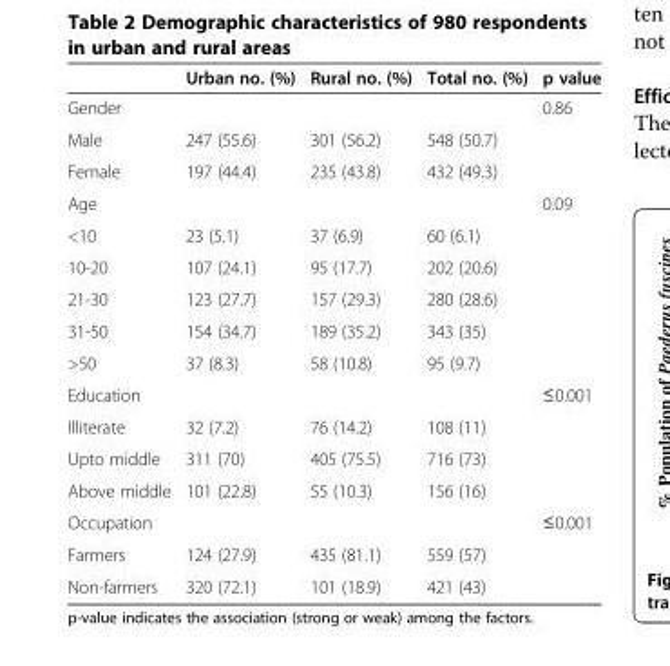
<table><thead><tr><td></td><td>Urban no. (%)</td><td>Rural no. (%)</td><td>Total no. (%)</td><td>p value</td></tr></thead><tbody><tr><td>Gender</td><td></td><td></td><td></td><td>0.86</td></tr><tr><td>Male</td><td>247 (55.6)</td><td>301 (56.2)</td><td>548 (50.7)</td><td></td></tr><tr><td>Female</td><td>197 (44.4)</td><td>235 (43.8)</td><td>432 (49.3)</td><td></td></tr><tr><td>Age</td><td></td><td></td><td></td><td>0.09</td></tr><tr><td>&lt;10</td><td>23 (5.1)</td><td>37 (6.9)</td><td>60 (6.1)</td><td></td></tr><tr><td>10-20</td><td>107 (24.1)</td><td>95 (17.7)</td><td>202 (20.6)</td><td></td></tr><tr><td>21-30</td><td>123 (27.7)</td><td>157 (29.3)</td><td>280 (28.6)</td><td></td></tr><tr><td>31-50</td><td>154 (34.7)</td><td>189 (35.2)</td><td>343 (35)</td><td></td></tr><tr><td>&gt;50</td><td>37 (8.3)</td><td>58 (10.8)</td><td>95 (9.7)</td><td></td></tr><tr><td>Education</td><td></td><td></td><td></td><td>≤0.001</td></tr><tr><td>Illiterate</td><td>32 (7.2)</td><td>76 (14.2)</td><td>108 (11)</td><td></td></tr><tr><td>Upto middle</td><td>311 (70)</td><td>405 (75.5)</td><td>716 (73)</td><td></td></tr><tr><td>Above middle</td><td>101 (22.8)</td><td>55 (10.3)</td><td>156 (16)</td><td></td></tr><tr><td>Occupation</td><td></td><td></td><td></td><td>≤0.001</td></tr><tr><td>Farmers</td><td>124 (27.9)</td><td>435 (81.1)</td><td>559 (57)</td><td></td></tr><tr><td>Non-farmers</td><td>320 (72.1)</td><td>101 (18.9)</td><td>421 (43)</td><td></td></tr></tbody></table>